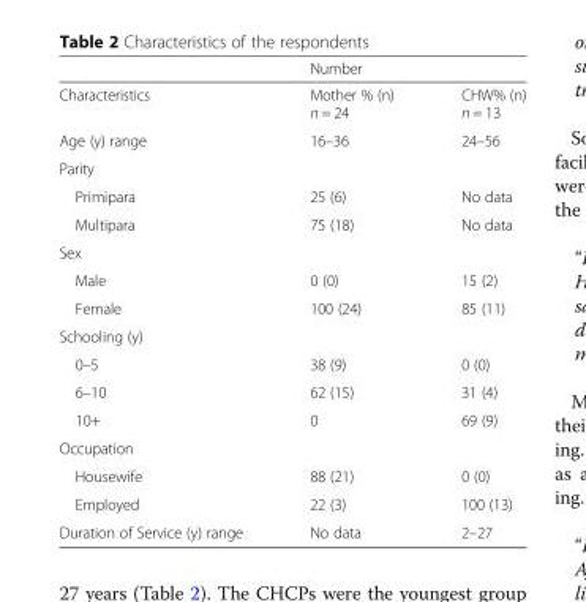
<table><thead><tr><td rowspan="2">Characteristics</td><td colspan="2">Number</td></tr><tr><td>Mother % (n) n = 24</td><td>CHW% (n) n = 13</td></tr></thead><tbody><tr><td>Age (y) range</td><td>16–36</td><td>24–56</td></tr><tr><td colspan="3">Parity</td></tr><tr><td>Primipara</td><td>25 (6)</td><td>No data</td></tr><tr><td>Multipara</td><td>75 (18)</td><td>No data</td></tr><tr><td colspan="3">Sex</td></tr><tr><td>Male</td><td>0 (0)</td><td>15 (2)</td></tr><tr><td>Female</td><td>100 (24)</td><td>85 (11)</td></tr><tr><td colspan="3">Schooling (y)</td></tr><tr><td>0–5</td><td>38 (9)</td><td>0 (0)</td></tr><tr><td>6–10</td><td>62 (15)</td><td>31 (4)</td></tr><tr><td>10+</td><td>0</td><td>69 (9)</td></tr><tr><td colspan="3">Occupation</td></tr><tr><td>Housewife</td><td>88 (21)</td><td>0 (0)</td></tr><tr><td>Employed</td><td>22 (3)</td><td>100 (13)</td></tr><tr><td>Duration of Service (y) range</td><td>No data</td><td>2–27</td></tr></tbody></table>